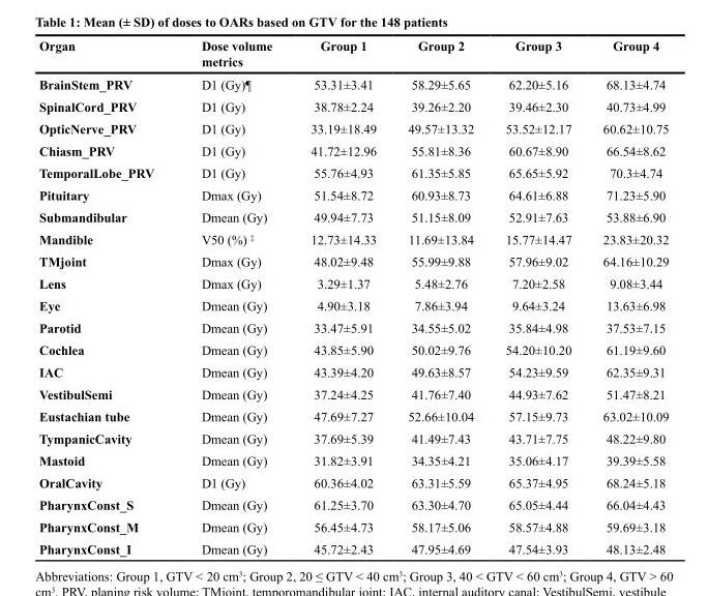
<table><thead><tr><td>Organ</td><td>Dose volume metrics</td><td>Group 1</td><td>Group 2</td><td>Group 3</td><td>Group 4</td></tr></thead><tbody><tr><td>BrainStem_PRV</td><td>D1 (Gy)<sup>¶</sup></td><td>53.31±3.41</td><td>58.29±5.65</td><td>62.20±5.16</td><td>68.13±4.74</td></tr><tr><td>SpinalCord_PRV</td><td>D1 (Gy)</td><td>38.78±2.24</td><td>39.26±2.20</td><td>39.46±2.30</td><td>40.73±4.99</td></tr><tr><td>OpticNerve_PRV</td><td>D1 (Gy)</td><td>33.19±18.49</td><td>49.57±13.32</td><td>53.52±12.17</td><td>60.62±10.75</td></tr><tr><td>Chiasm_PRV</td><td>D1 (Gy)</td><td>41.72±12.96</td><td>55.81±8.36</td><td>60.67±8.90</td><td>66.54±8.62</td></tr><tr><td>TemporalLobe_PRV</td><td>D1 (Gy)</td><td>55.76±4.93</td><td>61.35±5.85</td><td>65.65±5.92</td><td>70.3±4.74</td></tr><tr><td>Pituitary</td><td>Dmax (Gy)</td><td>51.54±8.72</td><td>60.93±8.73</td><td>64.61±6.88</td><td>71.23±5.90</td></tr><tr><td>Submandibular</td><td>Dmean (Gy)</td><td>49.94±7.73</td><td>51.15±8.09</td><td>52.91±7.63</td><td>53.88±6.90</td></tr><tr><td>Mandible</td><td>V50 (%) <sup>‡</sup></td><td>12.73±14.33</td><td>11.69±13.84</td><td>15.77±14.47</td><td>23.83±20.32</td></tr><tr><td>TMjoint</td><td>Dmax (Gy)</td><td>48.02±9.48</td><td>55.99±9.88</td><td>57.96±9.02</td><td>64.16±10.29</td></tr><tr><td>Lens</td><td>Dmax (Gy)</td><td>3.29±1.37</td><td>5.48±2.76</td><td>7.20±2.58</td><td>9.08±3.44</td></tr><tr><td>Eye</td><td>Dmean (Gy)</td><td>4.90±3.18</td><td>7.86±3.94</td><td>9.64±3.24</td><td>13.63±6.98</td></tr><tr><td>Parotid</td><td>Dmean (Gy)</td><td>33.47±5.91</td><td>34.55±5.02</td><td>35.84±4.98</td><td>37.53±7.15</td></tr><tr><td>Cochlea</td><td>Dmean (Gy)</td><td>43.85±5.90</td><td>50.02±9.76</td><td>54.20±10.20</td><td>61.19±9.60</td></tr><tr><td>IAC</td><td>Dmean (Gy)</td><td>43.39±4.20</td><td>49.63±8.57</td><td>54.23±9.59</td><td>62.35±9.31</td></tr><tr><td>VestibulSemi</td><td>Dmean (Gy)</td><td>37.24±4.25</td><td>41.76±7.40</td><td>44.93±7.62</td><td>51.47±8.21</td></tr><tr><td>Eustachian tube</td><td>Dmean (Gy)</td><td>47.69±7.27</td><td>52.66±10.04</td><td>57.15±9.73</td><td>63.02±10.09</td></tr><tr><td>TympanicCavity</td><td>Dmean (Gy)</td><td>37.69±5.39</td><td>41.49±7.43</td><td>43.71±7.75</td><td>48.22±9.80</td></tr><tr><td>Mastoid</td><td>Dmean (Gy)</td><td>31.82±3.91</td><td>34.35±4.21</td><td>35.06±4.17</td><td>39.39±5.58</td></tr><tr><td>OralCavity</td><td>D1 (Gy)</td><td>60.36±4.02</td><td>63.31±5.59</td><td>65.37±4.95</td><td>68.24±5.18</td></tr><tr><td>PharynxConst_S</td><td>Dmean (Gy)</td><td>61.25±3.70</td><td>63.30±4.70</td><td>65.05±4.44</td><td>66.04±4.43</td></tr><tr><td>PharynxConst_M</td><td>Dmean (Gy)</td><td>56.45±4.73</td><td>58.17±5.06</td><td>58.57±4.88</td><td>59.69±3.18</td></tr><tr><td>PharynxConst_I</td><td>Dmean (Gy)</td><td>45.72±2.43</td><td>47.95±4.69</td><td>47.54±3.93</td><td>48.13±2.48</td></tr></tbody></table>